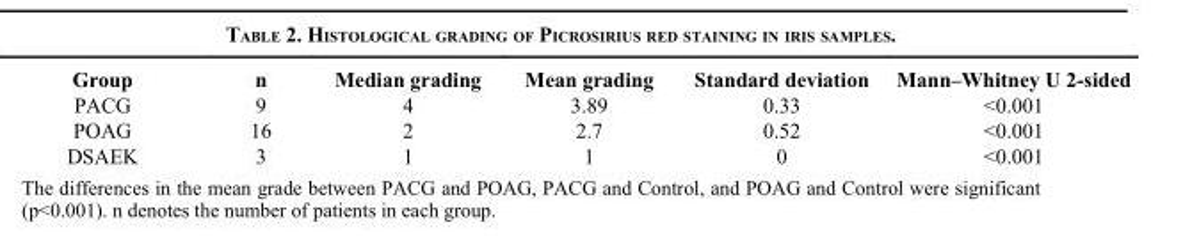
<table><thead><tr><td>Group</td><td>n</td><td>Median grading</td><td>Mean grading</td><td>Standard deviation</td><td>Mann–Whitney U 2-sided</td></tr></thead><tbody><tr><td>PACG</td><td>9</td><td>4</td><td>3.89</td><td>0.33</td><td>&lt;0.001</td></tr><tr><td>POAG</td><td>16</td><td>2</td><td>2.7</td><td>0.52</td><td>&lt;0.001</td></tr><tr><td>DSAEK</td><td>3</td><td>1</td><td>1</td><td>0</td><td>&lt;0.001</td></tr></tbody></table>